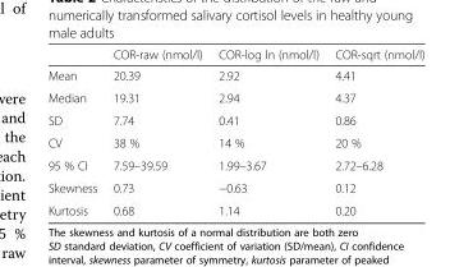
<table><thead><tr><td></td><td>COR-raw (nmol/l)</td><td>COR-log ln (nmol/l)</td><td>COR-sqrt (nmol/l)</td></tr></thead><tbody><tr><td>Mean</td><td>20.39</td><td>2.92</td><td>4.41</td></tr><tr><td>Median</td><td>19.31</td><td>2.94</td><td>4.37</td></tr><tr><td>SD</td><td>7.74</td><td>0.41</td><td>0.86</td></tr><tr><td>CV</td><td>38 %</td><td>14 %</td><td>20 %</td></tr><tr><td>95 % CI</td><td>7.59–39.59</td><td>1.99–3.67</td><td>2.72–6.28</td></tr><tr><td>Skewness</td><td>0.73</td><td>−0.63</td><td>0.12</td></tr><tr><td>Kurtosis</td><td>0.68</td><td>1.14</td><td>0.20</td></tr></tbody></table>